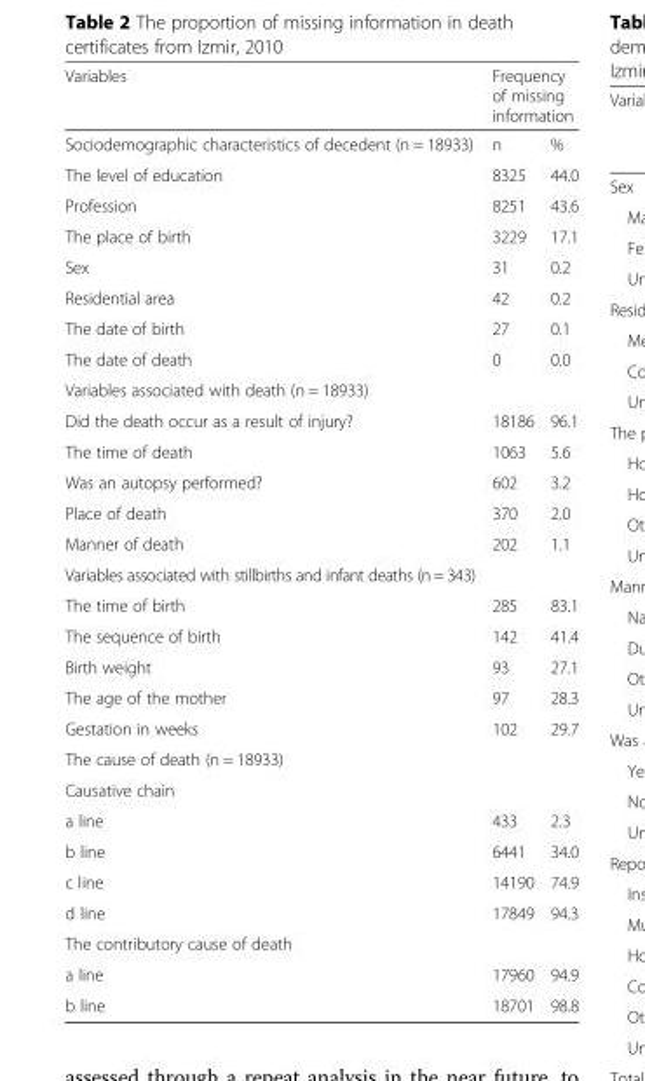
<table><thead><tr><td rowspan="2">Variables Sociodemographic characteristics of decedent (n = 18933)</td><td colspan="2">Frequency of missing information</td></tr><tr><td>n</td><td>%</td></tr></thead><tbody><tr><td>The level of education</td><td>8325</td><td>44.0</td></tr><tr><td>Profession</td><td>8251</td><td>43.6</td></tr><tr><td>The place of birth</td><td>3229</td><td>17.1</td></tr><tr><td>Sex</td><td>31</td><td>0.2</td></tr><tr><td>Residential area</td><td>42</td><td>0.2</td></tr><tr><td>The date of birth</td><td>27</td><td>0.1</td></tr><tr><td>The date of death</td><td>0</td><td>0.0</td></tr><tr><td colspan="3">Variables associated with death (n = 18933)</td></tr><tr><td>Did the death occur as a result of injury?</td><td>18186</td><td>96.1</td></tr><tr><td>The time of death</td><td>1063</td><td>5.6</td></tr><tr><td>Was an autopsy performed?</td><td>602</td><td>3.2</td></tr><tr><td>Place of death</td><td>370</td><td>2.0</td></tr><tr><td>Manner of death</td><td>202</td><td>1.1</td></tr><tr><td colspan="3">Variables associated with stillbirths and infant deaths (n = 343)</td></tr><tr><td>The time of birth</td><td>285</td><td>83.1</td></tr><tr><td>The sequence of birth</td><td>142</td><td>41.4</td></tr><tr><td>Birth weight</td><td>93</td><td>27.1</td></tr><tr><td>The age of the mother</td><td>97</td><td>28.3</td></tr><tr><td>Gestation in weeks</td><td>102</td><td>29.7</td></tr><tr><td colspan="3">The cause of death (n = 18933)</td></tr><tr><td colspan="3">Causative chain</td></tr><tr><td>a line</td><td>433</td><td>2.3</td></tr><tr><td>b line</td><td>6441</td><td>34.0</td></tr><tr><td>c line</td><td>14190</td><td>74.9</td></tr><tr><td>d line</td><td>17849</td><td>94.3</td></tr><tr><td colspan="3">The contributory cause of death</td></tr><tr><td>a line</td><td>17960</td><td>94.9</td></tr><tr><td>b line</td><td>18701</td><td>98.8</td></tr></tbody></table>